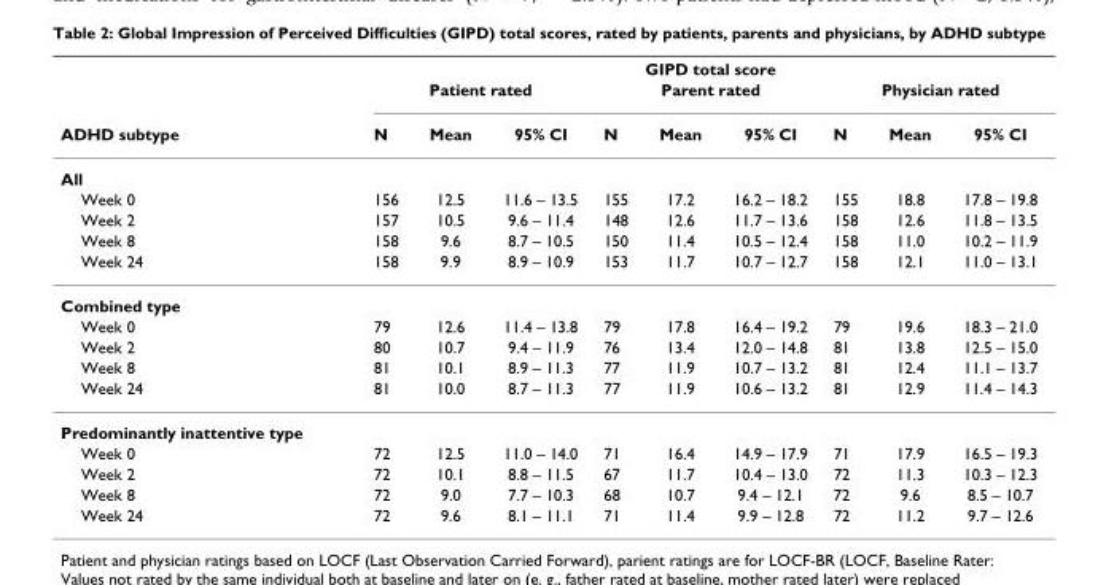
<table><thead><tr><td rowspan="3">ADHD subtype</td><td colspan="9">GIPD total score</td></tr><tr><td colspan="3">Patient rated</td><td colspan="3">Parent rated</td><td colspan="3">Physician rated</td></tr><tr><td>N</td><td>Mean</td><td>95% CI</td><td>N</td><td>Mean</td><td>95% CI</td><td>N</td><td>Mean</td><td>95% CI</td></tr></thead><tbody><tr><td colspan="10">All</td></tr><tr><td>Week 0</td><td>156</td><td>12.5</td><td>11.6 – 13.5</td><td>155</td><td>17.2</td><td>16.2 – 18.2</td><td>155</td><td>18.8</td><td>17.8 – 19.8</td></tr><tr><td>Week 2</td><td>157</td><td>10.5</td><td>9.6 – 11.4</td><td>148</td><td>12.6</td><td>11.7 – 13.6</td><td>158</td><td>12.6</td><td>11.8 – 13.5</td></tr><tr><td>Week 8</td><td>158</td><td>9.6</td><td>8.7 – 10.5</td><td>150</td><td>11.4</td><td>10.5 – 12.4</td><td>158</td><td>11.0</td><td>10.2 – 11.9</td></tr><tr><td>Week 24</td><td>158</td><td>9.9</td><td>8.9 – 10.9</td><td>153</td><td>11.7</td><td>10.7 – 12.7</td><td>158</td><td>12.1</td><td>11.0 – 13.1</td></tr><tr><td colspan="10">Combined type</td></tr><tr><td>Week 0</td><td>79</td><td>12.6</td><td>11.4 – 13.8</td><td>79</td><td>17.8</td><td>16.4 – 19.2</td><td>79</td><td>19.6</td><td>18.3 – 21.0</td></tr><tr><td>Week 2</td><td>80</td><td>10.7</td><td>9.4 – 11.9</td><td>76</td><td>13.4</td><td>12.0 – 14.8</td><td>81</td><td>13.8</td><td>12.5 – 15.0</td></tr><tr><td>Week 8</td><td>81</td><td>10.1</td><td>8.9 – 11.3</td><td>77</td><td>11.9</td><td>10.7 – 13.2</td><td>81</td><td>12.4</td><td>11.1 – 13.7</td></tr><tr><td>Week 24</td><td>81</td><td>10.0</td><td>8.7 – 11.3</td><td>77</td><td>11.9</td><td>10.6 – 13.2</td><td>81</td><td>12.9</td><td>11.4 – 14.3</td></tr><tr><td colspan="10">Predominantly inattentive type</td></tr><tr><td>Week 0</td><td>72</td><td>12.5</td><td>11.0 – 14.0</td><td>71</td><td>16.4</td><td>14.9 – 17.9</td><td>71</td><td>17.9</td><td>16.5 – 19.3</td></tr><tr><td>Week 2</td><td>72</td><td>10.1</td><td>8.8 – 11.5</td><td>67</td><td>11.7</td><td>10.4 – 13.0</td><td>72</td><td>11.3</td><td>10.3 – 12.3</td></tr><tr><td>Week 8</td><td>72</td><td>9.0</td><td>7.7 – 10.3</td><td>68</td><td>10.7</td><td>9.4 – 12.1</td><td>72</td><td>9.6</td><td>8.5 – 10.7</td></tr><tr><td>Week 24</td><td>72</td><td>9.6</td><td>8.1 – 11.1</td><td>71</td><td>11.4</td><td>9.9 – 12.8</td><td>72</td><td>11.2</td><td>9.7 – 12.6</td></tr></tbody></table>